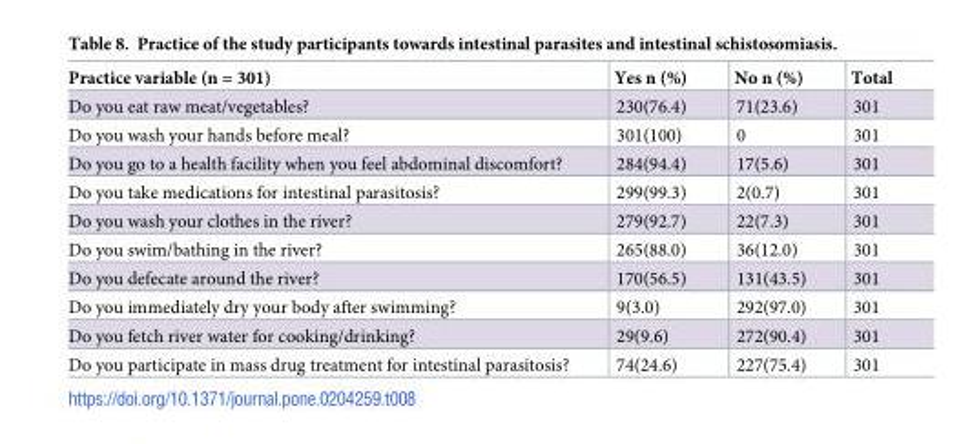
<table><thead><tr><td>Practice variable (n = 301)</td><td>Yes n (%)</td><td>No n (%)</td><td>Total</td></tr></thead><tbody><tr><td>Do you eat raw meat/vegetables?</td><td>230(76.4)</td><td>71(23.6)</td><td>301</td></tr><tr><td>Do you wash your hands before meal?</td><td>301(100)</td><td>0</td><td>301</td></tr><tr><td>Do you go to a health facility when you feel abdominal discomfort?</td><td>284(94.4)</td><td>17(5.6)</td><td>301</td></tr><tr><td>Do you take medications for intestinal parasitosis?</td><td>299(99.3)</td><td>2(0.7)</td><td>301</td></tr><tr><td>Do you wash your clothes in the river?</td><td>279(92.7)</td><td>22(7.3)</td><td>301</td></tr><tr><td>Do you swim/bathing in the river?</td><td>265(88.0)</td><td>36(12.0)</td><td>301</td></tr><tr><td>Do you defecate around the river?</td><td>170(56.5)</td><td>131(43.5)</td><td>301</td></tr><tr><td>Do you immediately dry your body after swimming?</td><td>9(3.0)</td><td>292(97.0)</td><td>301</td></tr><tr><td>Do you fetch river water for cooking/drinking?</td><td>29(9.6)</td><td>272(90.4)</td><td>301</td></tr><tr><td>Do you participate in mass drug treatment for intestinal parasitosis?</td><td>74(24.6)</td><td>227(75.4)</td><td>301</td></tr></tbody></table>